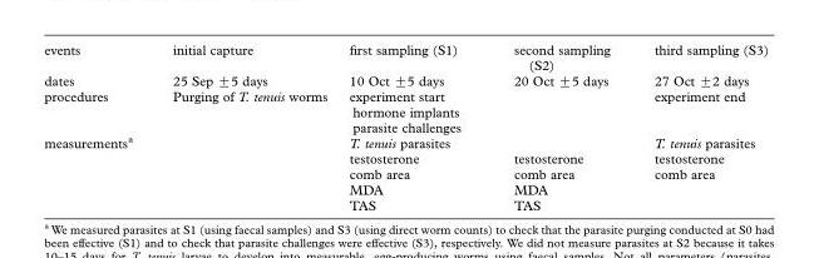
<table><tbody><tr><td>events</td><td>initial capture</td><td>first sampling (S1)</td><td>second sampling (S2)</td><td>third sampling (S3)</td></tr><tr><td>dates</td><td>25 Sep ±5 days</td><td>10 Oct ±5 days</td><td>20 Oct ±5 days</td><td>27 Oct ±2 days</td></tr><tr><td rowspan="3">procedures</td><td>Purging of T. tenuis worms</td><td>experiment start</td><td></td><td>experiment end</td></tr><tr><td></td><td>hormone implants</td><td></td><td></td></tr><tr><td></td><td>parasite challenges</td><td></td><td></td></tr><tr><td rowspan="5">measurements<sup>a</sup></td><td></td><td>T. tenuis parasites</td><td></td><td>T. tenuis parasites</td></tr><tr><td></td><td>testosterone</td><td>testosterone</td><td>testosterone</td></tr><tr><td></td><td>comb area</td><td>comb area</td><td>comb area</td></tr><tr><td></td><td>MDA</td><td>MDA</td><td></td></tr><tr><td></td><td>TAS</td><td>TAS</td><td></td></tr></tbody></table>